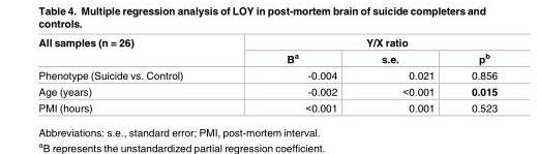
<table><thead><tr><td rowspan="2">All samples (n = 26)</td><td colspan="3">Y/X ratio</td></tr><tr><td>B<sup>a</sup></td><td>s.e.</td><td>p<sup>b</sup></td></tr></thead><tbody><tr><td>Phenotype (Suicide vs. Control)</td><td>-0.004</td><td>0.021</td><td>0.856</td></tr><tr><td>Age (years)</td><td>-0.002</td><td>&lt;0.001</td><td>0.015</td></tr><tr><td>PMI (hours)</td><td>&lt;0.001</td><td>0.001</td><td>0.523</td></tr></tbody></table>